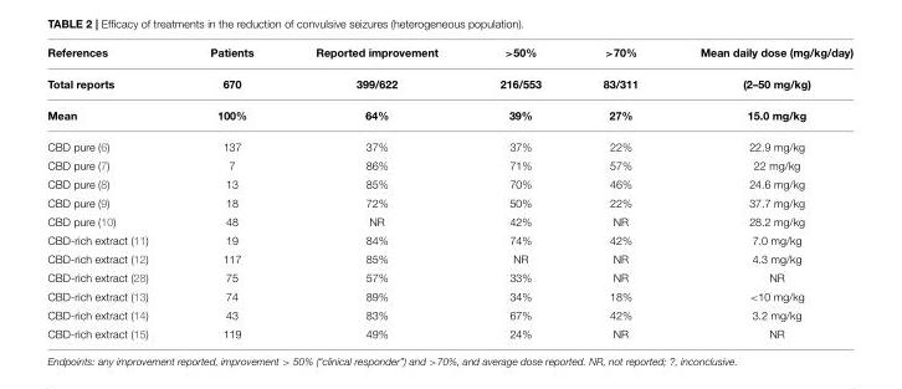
<table><thead><tr><td rowspan="3">References Total reports Mean</td><td rowspan="3">Patients 670 100%</td><td rowspan="3">Reported improvement 399/622 64%</td><td rowspan="3">&gt;50% 216/553 39%</td><td rowspan="3">&gt;70% 83/311 27%</td><td rowspan="3">Mean daily dose (mg/kg/day) (2–50 mg/kg) 15.0 mg/kg</td></tr><tr></tr><tr></tr></thead><tbody><tr><td>CBD pure (6)</td><td>137</td><td>37%</td><td>37%</td><td>22%</td><td>22.9 mg/kg</td></tr><tr><td>CBD pure (7)</td><td>7</td><td>86%</td><td>71%</td><td>57%</td><td>22 mg/kg</td></tr><tr><td>CBD pure (8)</td><td>13</td><td>85%</td><td>70%</td><td>46%</td><td>24.6 mg/kg</td></tr><tr><td>CBD pure (9)</td><td>18</td><td>72%</td><td>50%</td><td>22%</td><td>37.7 mg/kg</td></tr><tr><td>CBD pure (10)</td><td>48</td><td>NR</td><td>42%</td><td>NR</td><td>28.2 mg/kg</td></tr><tr><td>CBD-rich extract (11)</td><td>19</td><td>84%</td><td>74%</td><td>42%</td><td>7.0 mg/kg</td></tr><tr><td>CBD-rich extract (12)</td><td>117</td><td>85%</td><td>NR</td><td>NR</td><td>4.3 mg/kg</td></tr><tr><td>CBD-rich extract (28)</td><td>75</td><td>57%</td><td>33%</td><td>NR</td><td>NR</td></tr><tr><td>CBD-rich extract (13)</td><td>74</td><td>89%</td><td>34%</td><td>18%</td><td>&lt;10 mg/kg</td></tr><tr><td>CBD-rich extract (14)</td><td>43</td><td>83%</td><td>67%</td><td>42%</td><td>3.2 mg/kg</td></tr><tr><td>CBD-rich extract (15)</td><td>119</td><td>49%</td><td>24%</td><td>NR</td><td>NR</td></tr></tbody></table>